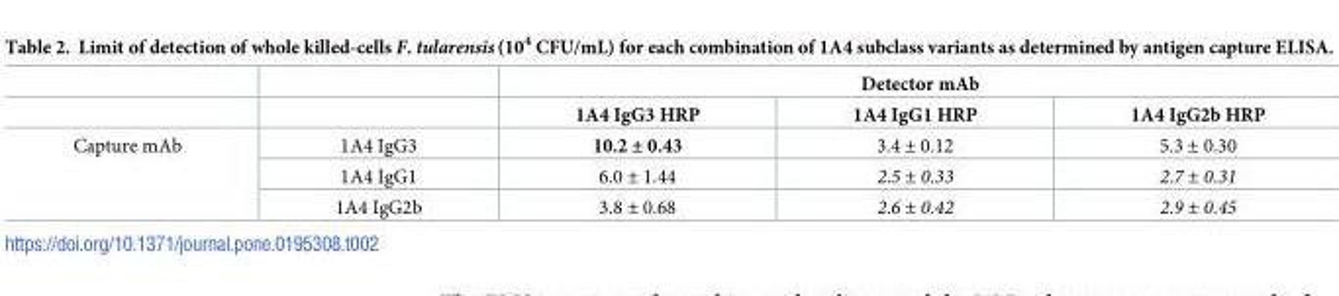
<table><thead><tr><td rowspan="2"></td><td rowspan="2"></td><td colspan="3">Detector mAb</td></tr><tr><td>1A4 IgG3 HRP</td><td>1A4 IgG1 HRP</td><td>1A4 IgG2b HRP</td></tr></thead><tbody><tr><td rowspan="3">Capture mAb</td><td>1A4 IgG3</td><td>10.2 ± 0.43</td><td>3.4 ± 0.12</td><td>5.3 ± 0.30</td></tr><tr><td>1A4 IgG1</td><td>6.0 ± 1.44</td><td>2.5 ± 0.33</td><td>2.7 ± 0.31</td></tr><tr><td>1A4 IgG2b</td><td>3.8 ± 0.68</td><td>2.6 ± 0.42</td><td>2.9 ± 0.45</td></tr></tbody></table>